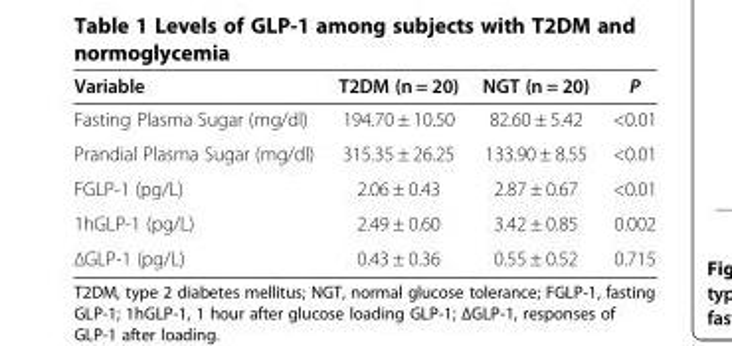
<table><thead><tr><td>Variable</td><td>T2DM (n = 20)</td><td>NGT (n = 20)</td><td>P</td></tr></thead><tbody><tr><td>Fasting Plasma Sugar (mg/dl)</td><td>194.70 ± 10.50</td><td>82.60 ± 5.42</td><td>&lt;0.01</td></tr><tr><td>Prandial Plasma Sugar (mg/dl)</td><td>315.35 ± 26.25</td><td>133.90 ± 8.55</td><td>&lt;0.01</td></tr><tr><td>FGLP-1 (pg/L)</td><td>2.06 ± 0.43</td><td>2.87 ± 0.67</td><td>&lt;0.01</td></tr><tr><td>1hGLP-1 (pg/L)</td><td>2.49 ± 0.60</td><td>3.42 ± 0.85</td><td>0.002</td></tr><tr><td>ΔGLP-1 (pg/L)</td><td>0.43 ± 0.36</td><td>0.55 ± 0.52</td><td>0.715</td></tr></tbody></table>